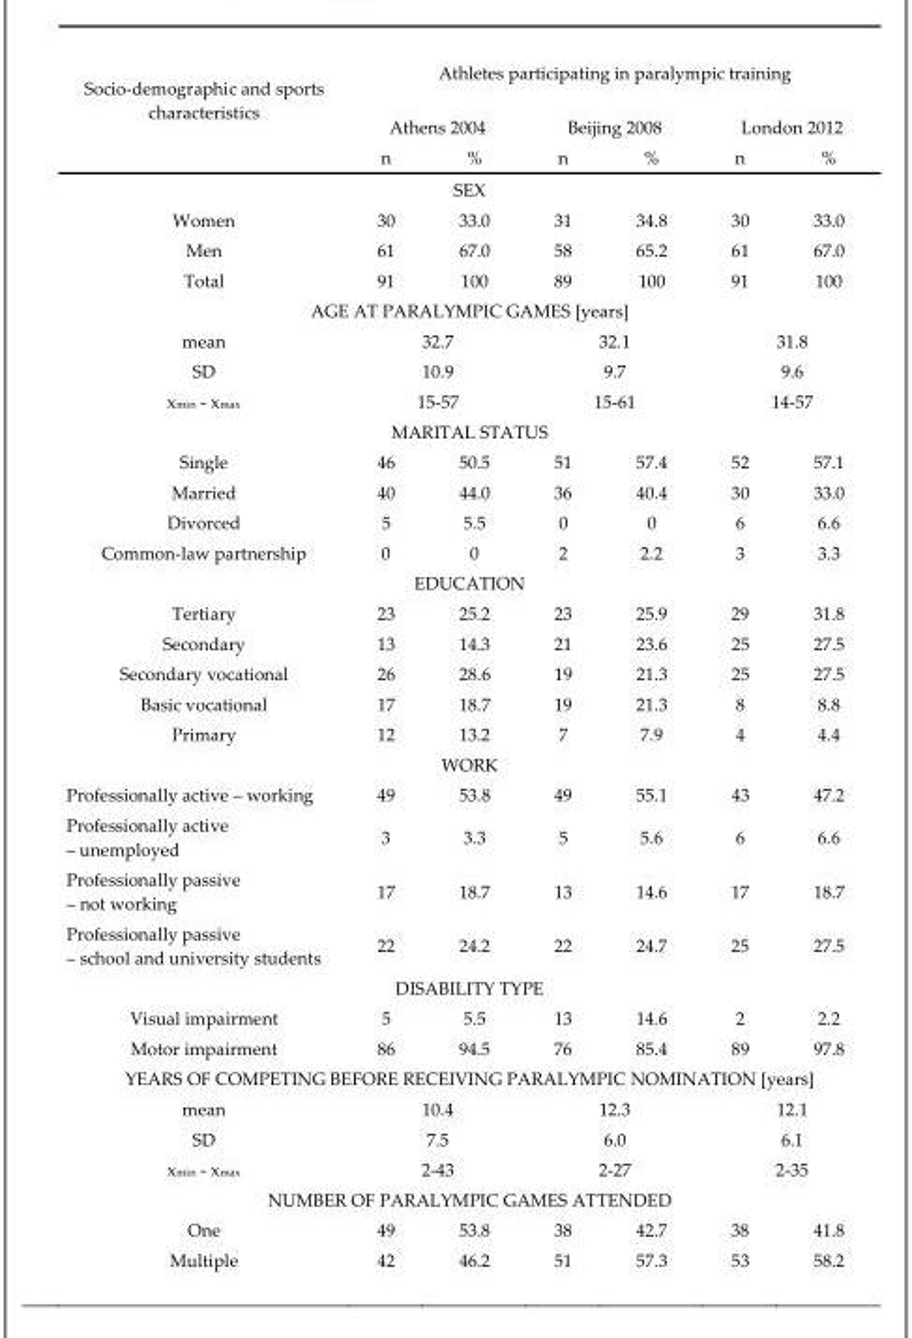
<table><thead><tr><td rowspan="3">Socio-demographic and sports characteristics</td><td colspan="6">Athletes participating in paralympic training</td></tr><tr><td colspan="2">Athens 2004</td><td colspan="2">Beijing 2008</td><td colspan="2">London 2012</td></tr><tr><td>n</td><td>%</td><td>n</td><td>%</td><td>n</td><td>%</td></tr></thead><tbody><tr><td colspan="7">SEX</td></tr><tr><td>Women</td><td>30</td><td>33.0</td><td>31</td><td>34.8</td><td>30</td><td>33.0</td></tr><tr><td>Men</td><td>61</td><td>67.0</td><td>58</td><td>65.2</td><td>61</td><td>67.0</td></tr><tr><td>Total</td><td>91</td><td>100</td><td>89</td><td>100</td><td>91</td><td>100</td></tr><tr><td colspan="7">AGE AT PARALYMPIC GAMES [years]</td></tr><tr><td>mean</td><td colspan="2">32.7</td><td colspan="2">32.1</td><td colspan="2">31.8</td></tr><tr><td>SD</td><td colspan="2">10.9</td><td colspan="2">9.7</td><td colspan="2">9.6</td></tr><tr><td>x<sub>min</sub> - x<sub>max</sub></td><td colspan="2">15-57</td><td colspan="2">15-61</td><td colspan="2">14-57</td></tr><tr><td colspan="7">MARITAL STATUS</td></tr><tr><td>Single</td><td>46</td><td>50.5</td><td>51</td><td>57.4</td><td>52</td><td>57.1</td></tr><tr><td>Married</td><td>40</td><td>44.0</td><td>36</td><td>40.4</td><td>30</td><td>33.0</td></tr><tr><td>Divorced</td><td>5</td><td>5.5</td><td>0</td><td>0</td><td>6</td><td>6.6</td></tr><tr><td>Common-law partnership</td><td>0</td><td>0</td><td>2</td><td>2.2</td><td>3</td><td>3.3</td></tr><tr><td colspan="7">EDUCATION</td></tr><tr><td>Tertiary</td><td>23</td><td>25.2</td><td>23</td><td>25.9</td><td>29</td><td>31.8</td></tr><tr><td>Secondary</td><td>13</td><td>14.3</td><td>21</td><td>23.6</td><td>25</td><td>27.5</td></tr><tr><td>Secondary vocational</td><td>26</td><td>28.6</td><td>19</td><td>21.3</td><td>25</td><td>27.5</td></tr><tr><td>Basic vocational</td><td>17</td><td>18.7</td><td>19</td><td>21.3</td><td>8</td><td>8.8</td></tr><tr><td>Primary</td><td>12</td><td>13.2</td><td>7</td><td>7.9</td><td>4</td><td>4.4</td></tr><tr><td colspan="7">WORK</td></tr><tr><td>Professionally active – working</td><td>49</td><td>53.8</td><td>49</td><td>55.1</td><td>43</td><td>47.2</td></tr><tr><td>Professionally active – unemployed</td><td>3</td><td>3.3</td><td>5</td><td>5.6</td><td>6</td><td>6.6</td></tr><tr><td>Professionally passive – not working</td><td>17</td><td>18.7</td><td>13</td><td>14.6</td><td>17</td><td>18.7</td></tr><tr><td>Professionally passive – school and university students</td><td>22</td><td>24.2</td><td>22</td><td>24.7</td><td>25</td><td>27.5</td></tr><tr><td colspan="7">DISABILITY TYPE</td></tr><tr><td>Visual impairment</td><td>5</td><td>5.5</td><td>13</td><td>14.6</td><td>2</td><td>2.2</td></tr><tr><td>Motor impairment</td><td>86</td><td>94.5</td><td>76</td><td>85.4</td><td>89</td><td>97.8</td></tr><tr><td colspan="7">YEARS OF COMPETING BEFORE RECEIVING PARALYMPIC NOMINATION [years]</td></tr><tr><td>mean</td><td colspan="2">10.4</td><td colspan="2">12.3</td><td colspan="2">12.1</td></tr><tr><td>SD</td><td colspan="2">7.5</td><td colspan="2">6.0</td><td colspan="2">6.1</td></tr><tr><td>x<sub>min</sub> - x<sub>max</sub></td><td colspan="2">2-43</td><td colspan="2">2-27</td><td colspan="2">2-35</td></tr><tr><td colspan="7">NUMBER OF PARALYMPIC GAMES ATTENDED</td></tr><tr><td>One</td><td>49</td><td>53.8</td><td>38</td><td>42.7</td><td>38</td><td>41.8</td></tr><tr><td>Multiple</td><td>42</td><td>46.2</td><td>51</td><td>57.3</td><td>53</td><td>58.2</td></tr></tbody></table>